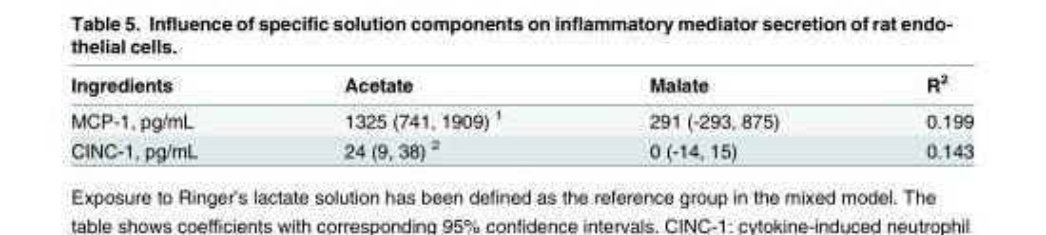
<table><thead><tr><td>Ingredients</td><td>Acetate</td><td>Malate</td><td>R<sup>2</sup></td></tr></thead><tbody><tr><td>MCP-1, pg/mL</td><td>1325 (741, 1909) <sup>1</sup></td><td>291 (-293, 875)</td><td>0.199</td></tr><tr><td>CINC-1, pg/mL</td><td>24 (9, 38) <sup>2</sup></td><td>0 (-14, 15)</td><td>0.143</td></tr></tbody></table>